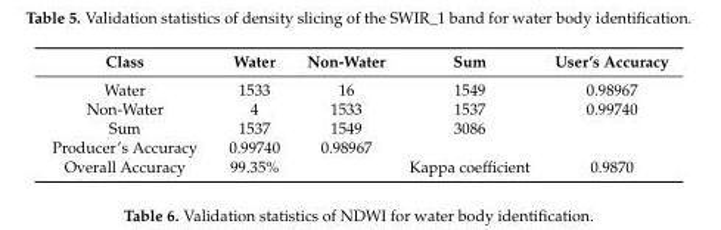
<table><thead><tr><td>Class</td><td>Water</td><td>Non-Water</td><td>Sum</td><td>User’s Accuracy</td></tr></thead><tbody><tr><td>Water</td><td>1533</td><td>16</td><td>1549</td><td>0.98967</td></tr><tr><td>Non-Water</td><td>4</td><td>1533</td><td>1537</td><td>0.99740</td></tr><tr><td>Sum</td><td>1537</td><td>1549</td><td>3086</td><td></td></tr><tr><td>Producer’s Accuracy</td><td>0.99740</td><td>0.98967</td><td></td><td></td></tr><tr><td>Overall Accuracy</td><td>99.35%</td><td></td><td>Kappa coefficient</td><td>0.9870</td></tr></tbody></table>